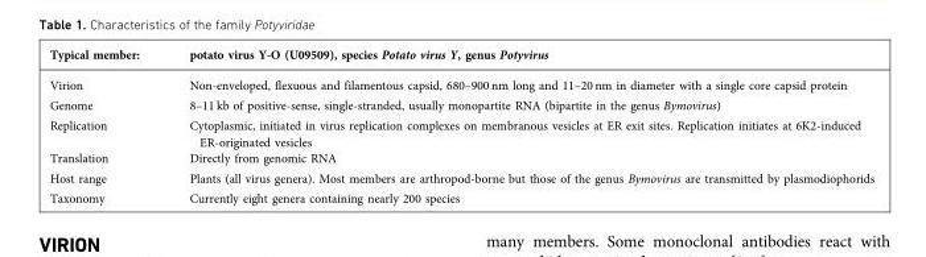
<table><thead><tr><td>Typical member:</td><td>potato virus Y-O (U09509), species Potato virus Y, genus Potyvirus</td></tr></thead><tbody><tr><td>Virion</td><td>Non-enveloped, flexuous and filamentous capsid, 680–900 nm long and 11–20 nm in diameter with a single core capsid protein</td></tr><tr><td>Genome</td><td>8–11 kb of positive-sense, single-stranded, usually monopartite RNA (bipartite in the genus Bymovirus)</td></tr><tr><td>Replication</td><td>Cytoplasmic, initiated in virus replication complexes on membranous vesicles at ER exit sites. Replication initiates at 6K2-induced ER-originated vesicles</td></tr><tr><td>Translation</td><td>Directly from genomic RNA</td></tr><tr><td>Host range</td><td>Plants (all virus genera). Most members are arthropod-borne but those of the genus Bymovirus are transmitted by plasmodiophorids</td></tr><tr><td>Taxonomy</td><td>Currently eight genera containing nearly 200 species</td></tr></tbody></table>